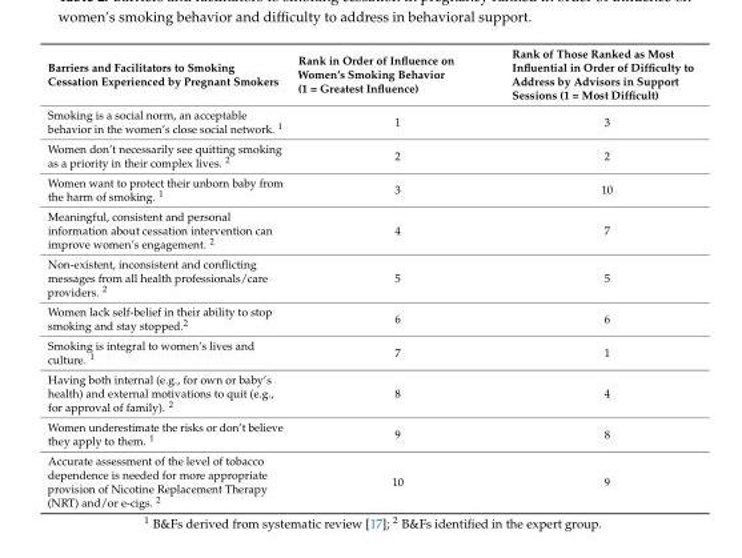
<table><thead><tr><td>Barriers and Facilitators to Smoking Cessation Experienced by Pregnant Smokers</td><td>Rank in Order of Influence on Women’s Smoking Behavior (1 = Greatest Influence)</td><td>Rank of Those Ranked as Most Influential in Order of Difficulty to Address by Advisors in Support Sessions (1 = Most Difficult)</td></tr></thead><tbody><tr><td>Smoking is a social norm, an acceptable behavior in the women’s close social network. <sup>1</sup></td><td>1</td><td>3</td></tr><tr><td>Women don’t necessarily see quitting smoking as a priority in their complex lives. <sup>2</sup></td><td>2</td><td>2</td></tr><tr><td>Women want to protect their unborn baby from the harm of smoking. <sup>1</sup></td><td>3</td><td>10</td></tr><tr><td>Meaningful, consistent and personal information about cessation intervention can improve women’s engagement. <sup>2</sup></td><td>4</td><td>7</td></tr><tr><td>Non-existent, inconsistent and conflicting messages from all health professionals/care providers. <sup>2</sup></td><td>5</td><td>5</td></tr><tr><td>Women lack self-belief in their ability to stop smoking and stay stopped.<sup>2</sup></td><td>6</td><td>6</td></tr><tr><td>Smoking is integral to women’s lives and culture. <sup>1</sup></td><td>7</td><td>1</td></tr><tr><td>Having both internal (e.g., for own or baby’s health) and external motivations to quit (e.g., for approval of family). <sup>2</sup></td><td>8</td><td>4</td></tr><tr><td>Women underestimate the risks or don’t believe they apply to them. <sup>1</sup></td><td>9</td><td>8</td></tr><tr><td>Accurate assessment of the level of tobacco dependence is needed for more appropriate provision of Nicotine Replacement Therapy (NRT) and/or e-cigs. 2</td><td>10</td><td>9</td></tr></tbody></table>